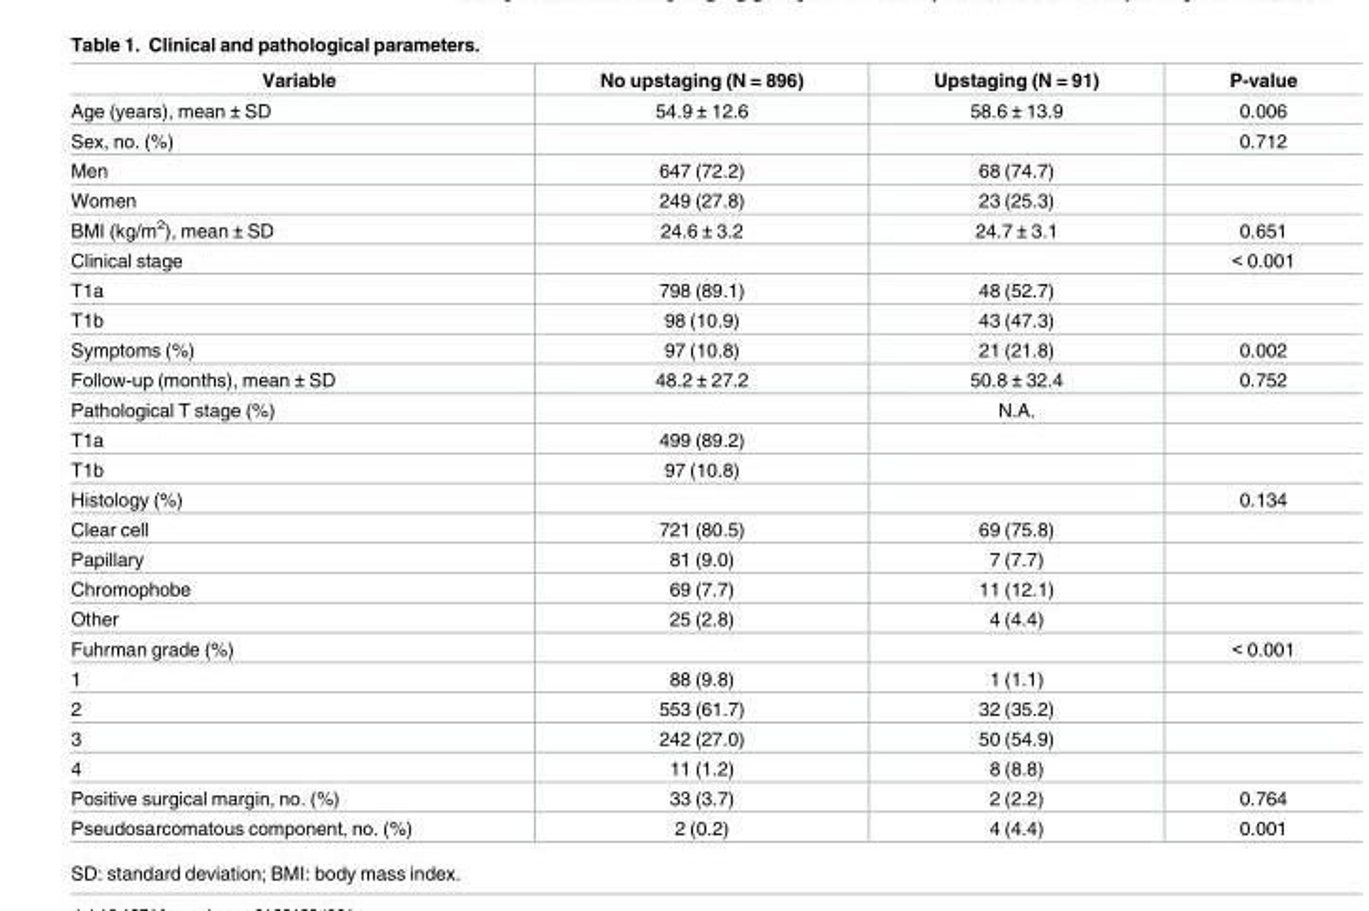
<table><thead><tr><td>Variable</td><td>No upstaging (N = 896)</td><td>Upstaging (N = 91)</td><td>P-value</td></tr></thead><tbody><tr><td>Age (years), mean ± SD</td><td>54.9 ± 12.6</td><td>58.6 ± 13.9</td><td>0.006</td></tr><tr><td>Sex, no. (%)</td><td></td><td></td><td>0.712</td></tr><tr><td>Men</td><td>647 (72.2)</td><td>68 (74.7)</td><td></td></tr><tr><td>Women</td><td>249 (27.8)</td><td>23 (25.3)</td><td></td></tr><tr><td>BMI (kg/m<sup>2</sup>), mean ± SD</td><td>24.6 ± 3.2</td><td>24.7 ± 3.1</td><td>0.651</td></tr><tr><td>Clinical stage</td><td></td><td></td><td>&lt; 0.001</td></tr><tr><td>T1a</td><td>798 (89.1)</td><td>48 (52.7)</td><td></td></tr><tr><td>T1b</td><td>98 (10.9)</td><td>43 (47.3)</td><td></td></tr><tr><td>Symptoms (%)</td><td>97 (10.8)</td><td>21 (21.8)</td><td>0.002</td></tr><tr><td>Follow-up (months), mean ± SD</td><td>48.2 ± 27.2</td><td>50.8 ± 32.4</td><td>0.752</td></tr><tr><td>Pathological T stage (%)</td><td></td><td>N.A.</td><td></td></tr><tr><td>T1a</td><td>499 (89.2)</td><td></td><td></td></tr><tr><td>T1b</td><td>97 (10.8)</td><td></td><td></td></tr><tr><td>Histology (%)</td><td></td><td></td><td>0.134</td></tr><tr><td>Clear cell</td><td>721 (80.5)</td><td>69 (75.8)</td><td></td></tr><tr><td>Papillary</td><td>81 (9.0)</td><td>7 (7.7)</td><td></td></tr><tr><td>Chromophobe</td><td>69 (7.7)</td><td>11 (12.1)</td><td></td></tr><tr><td>Other</td><td>25 (2.8)</td><td>4 (4.4)</td><td></td></tr><tr><td>Fuhrman grade (%)</td><td></td><td></td><td>&lt; 0.001</td></tr><tr><td>1</td><td>88 (9.8)</td><td>1 (1.1)</td><td></td></tr><tr><td>2</td><td>553 (61.7)</td><td>32 (35.2)</td><td></td></tr><tr><td>3</td><td>242 (27.0)</td><td>50 (54.9)</td><td></td></tr><tr><td>4</td><td>11 (1.2)</td><td>8 (8.8)</td><td></td></tr><tr><td>Positive surgical margin, no. (%)</td><td>33 (3.7)</td><td>2 (2.2)</td><td>0.764</td></tr><tr><td>Pseudosarcomatous component, no. (%)</td><td>2 (0.2)</td><td>4 (4.4)</td><td>0.001</td></tr></tbody></table>